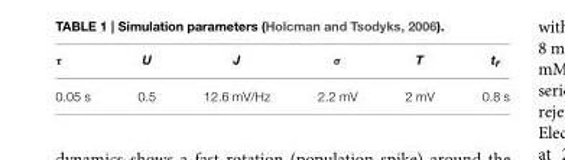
<table><thead><tr><td>τ</td><td>U</td><td>J</td><td>σ</td><td>T</td><td>t<sub>r</sub></td></tr></thead><tbody><tr><td>0.05 s</td><td>0.5</td><td>12.6 mV/Hz</td><td>2.2 mV</td><td>2 mV</td><td>0.8 s</td></tr></tbody></table>